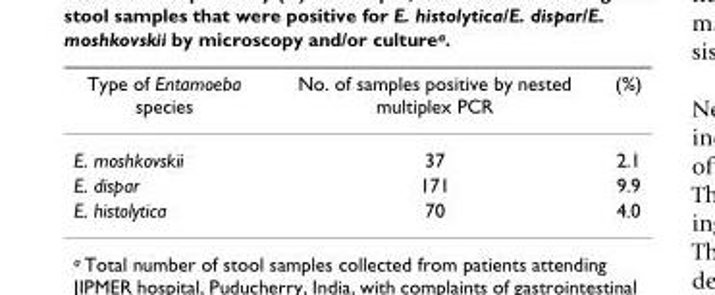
<table><thead><tr><td>Type of Entamoeba species</td><td>No. of samples positive by nested multiplex PCR</td><td>(%)</td></tr></thead><tbody><tr><td>E. moshkovskii</td><td>37</td><td>2.1</td></tr><tr><td>E. dispar</td><td>171</td><td>9.9</td></tr><tr><td>E. histolytica</td><td>70</td><td>4.0</td></tr></tbody></table>